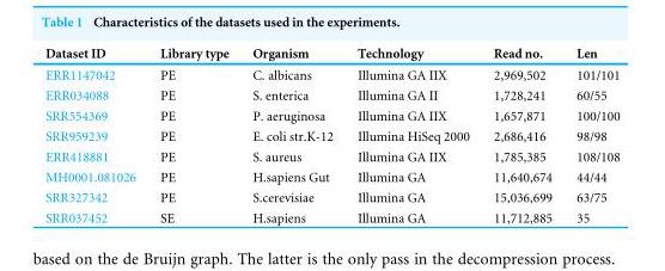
<table><thead><tr><td>Dataset ID</td><td>Library type</td><td>Organism</td><td>Technology</td><td>Read no.</td><td>Len</td></tr></thead><tbody><tr><td>ERR1147042</td><td>PE</td><td>C. albicans</td><td>Illumina GA IIX</td><td>2,969,502</td><td>101/101</td></tr><tr><td>ERR034088</td><td>PE</td><td>S. enterica</td><td>Illumina GA II</td><td>1,728,241</td><td>60/55</td></tr><tr><td>SRR554369</td><td>PE</td><td>P. aeruginosa</td><td>Illumina GA IIX</td><td>1,657,871</td><td>100/100</td></tr><tr><td>SRR959239</td><td>PE</td><td>E. coli str.K-12</td><td>Illumina HiSeq 2000</td><td>2,686,416</td><td>98/98</td></tr><tr><td>ERR418881</td><td>PE</td><td>S. aureus</td><td>Illumina GA IIX</td><td>1,785,385</td><td>108/108</td></tr><tr><td>MH0001.081026</td><td>PE</td><td>H.sapiens Gut</td><td>Illumina GA</td><td>11,640,674</td><td>44/44</td></tr><tr><td>SRR327342</td><td>PE</td><td>S.cerevisiae</td><td>Illumina GA</td><td>15,036,699</td><td>63/75</td></tr><tr><td>SRR037452</td><td>SE</td><td>H.sapiens</td><td>Illumina GA</td><td>11,712,885</td><td>35</td></tr></tbody></table>